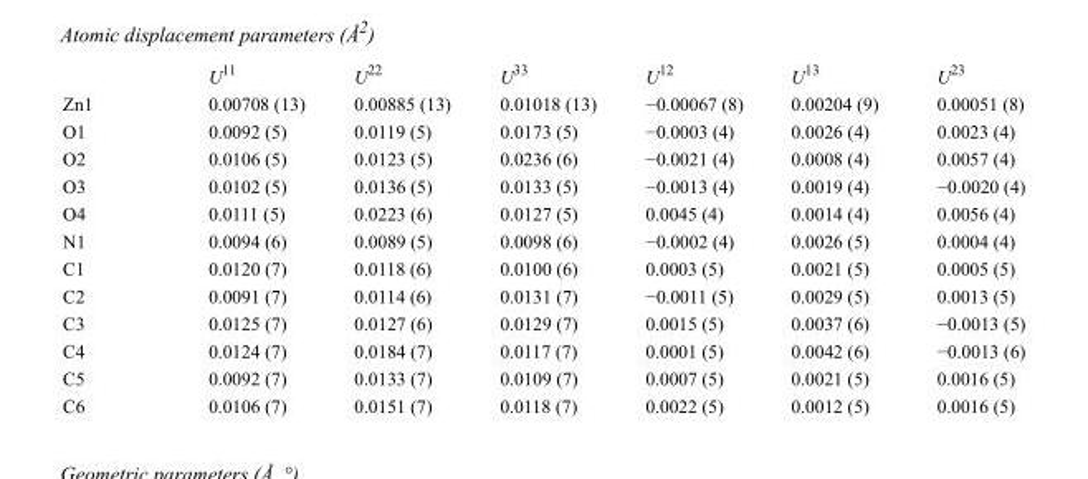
<table><thead><tr><td></td><td>U<sup>11</sup></td><td>U<sup>22</sup></td><td>U<sup>33</sup></td><td>U<sup>12</sup></td><td>U<sup>13</sup></td><td>U<sup>23</sup></td></tr></thead><tbody><tr><td>Zn1</td><td>0.00708 (13)</td><td>0.00885 (13)</td><td>0.01018 (13)</td><td>−0.00067 (8)</td><td>0.00204 (9)</td><td>0.00051 (8)</td></tr><tr><td>O1</td><td>0.0092 (5)</td><td>0.0119 (5)</td><td>0.0173 (5)</td><td>−0.0003 (4)</td><td>0.0026 (4)</td><td>0.0023 (4)</td></tr><tr><td>O2</td><td>0.0106 (5)</td><td>0.0123 (5)</td><td>0.0236 (6)</td><td>−0.0021 (4)</td><td>0.0008 (4)</td><td>0.0057 (4)</td></tr><tr><td>O3</td><td>0.0102 (5)</td><td>0.0136 (5)</td><td>0.0133 (5)</td><td>−0.0013 (4)</td><td>0.0019 (4)</td><td>−0.0020 (4)</td></tr><tr><td>O4</td><td>0.0111 (5)</td><td>0.0223 (6)</td><td>0.0127 (5)</td><td>0.0045 (4)</td><td>0.0014 (4)</td><td>0.0056 (4)</td></tr><tr><td>N1</td><td>0.0094 (6)</td><td>0.0089 (5)</td><td>0.0098 (6)</td><td>−0.0002 (4)</td><td>0.0026 (5)</td><td>0.0004 (4)</td></tr><tr><td>C1</td><td>0.0120 (7)</td><td>0.0118 (6)</td><td>0.0100 (6)</td><td>0.0003 (5)</td><td>0.0021 (5)</td><td>0.0005 (5)</td></tr><tr><td>C2</td><td>0.0091 (7)</td><td>0.0114 (6)</td><td>0.0131 (7)</td><td>−0.0011 (5)</td><td>0.0029 (5)</td><td>0.0013 (5)</td></tr><tr><td>C3</td><td>0.0125 (7)</td><td>0.0127 (6)</td><td>0.0129 (7)</td><td>0.0015 (5)</td><td>0.0037 (6)</td><td>−0.0013 (5)</td></tr><tr><td>C4</td><td>0.0124 (7)</td><td>0.0184 (7)</td><td>0.0117 (7)</td><td>0.0001 (5)</td><td>0.0042 (6)</td><td>−0.0013 (6)</td></tr><tr><td>C5</td><td>0.0092 (7)</td><td>0.0133 (7)</td><td>0.0109 (7)</td><td>0.0007 (5)</td><td>0.0021 (5)</td><td>0.0016 (5)</td></tr><tr><td>C6</td><td>0.0106 (7)</td><td>0.0151 (7)</td><td>0.0118 (7)</td><td>0.0022 (5)</td><td>0.0012 (5)</td><td>0.0016 (5)</td></tr></tbody></table>